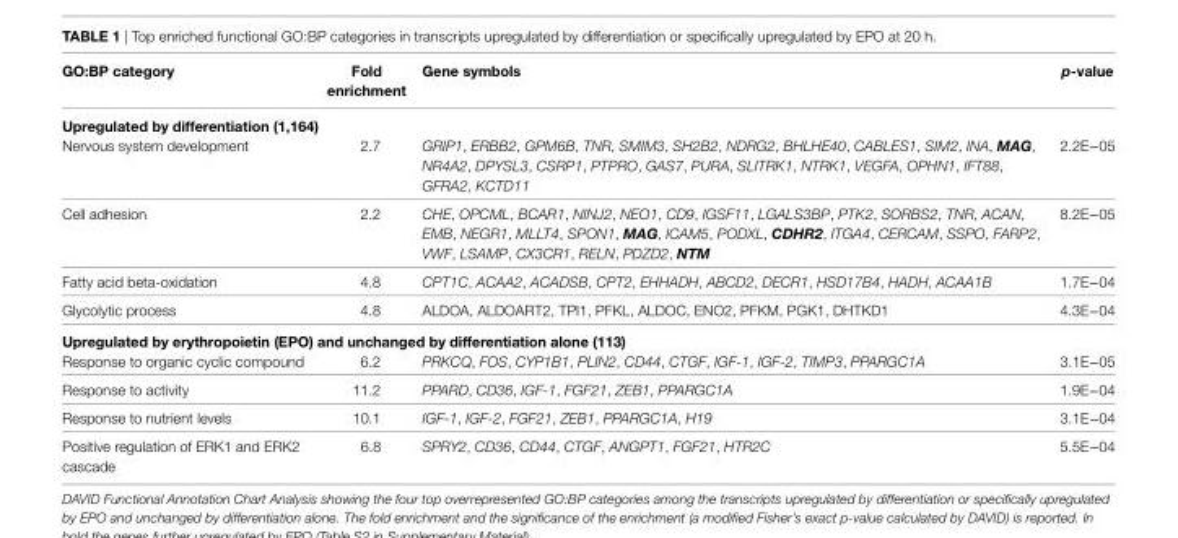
<table><thead><tr><td>gO:BP category</td><td>Fold enrichment</td><td>gene symbols</td><td>p-value</td></tr></thead><tbody><tr><td colspan="4">Upregulated by differentiation (1,164)</td></tr><tr><td>Nervous system development</td><td>2.7</td><td>GRIP1, ERBB2, GPM6B, TNR, SMIM3, SH2B2, NDRG2, BHLHE40, CABLES1, SIM2, INA, MAG, NR4A2, DPYSL3, CSRP1, PTPRO, GAS7, PURA, SLITRK1, NTRK1, VEGFA, OPHN1, IFT88, GFRA2, KCTD11</td><td>2.2E−05</td></tr><tr><td>Cell adhesion</td><td>2.2</td><td>CHE, OPCML, BCAR1, NINJ2, NEO1, CD9, IGSF11, LGALS3BP, PTK2, SORBS2, TNR, ACAN, EMB, NEGR1, MLLT4, SPON1, MAG, ICAM5, PODXL, CDHR2, ITGA4, CERCAM, SSPO, FARP2, VWF, LSAMP, CX3CR1, RELN, PDZD2, NTM</td><td>8.2E−05</td></tr><tr><td>Fatty acid beta-oxidation</td><td>4.8</td><td>CPT1C, ACAA2, ACADSB, CPT2, EHHADH, ABCD2, DECR1, HSD17B4, HADH, ACAA1B</td><td>1.7E−04</td></tr><tr><td>Glycolytic process</td><td>4.8</td><td>ALDOA, ALDOART2, TPI1, PFKL, ALDOC, ENO2, PFKM, PGK1, DHTKD1</td><td>4.3E−04</td></tr><tr><td colspan="4">Upregulated by erythropoietin (ePO) and unchanged by differentiation alone (113)</td></tr><tr><td>Response to organic cyclic compound</td><td>6.2</td><td>PRKCQ, FOS, CYP1B1, PLIN2, CD44, CTGF, IGF-1, IGF-2, TIMP3, PPARGC1A</td><td>3.1E−05</td></tr><tr><td>Response to activity</td><td>11.2</td><td>PPARD, CD36, IGF-1, FGF21, ZEB1, PPARGC1A</td><td>1.9E−04</td></tr><tr><td>Response to nutrient levels</td><td>10.1</td><td>IGF-1, IGF-2, FGF21, ZEB1, PPARGC1A, H19</td><td>3.1E−04</td></tr><tr><td>Positive regulation of ERK1 and ERK2 cascade</td><td>6.8</td><td>SPRY2, CD36, CD44, CTGF, ANGPT1, FGF21, HTR2C</td><td>5.5E−04</td></tr></tbody></table>